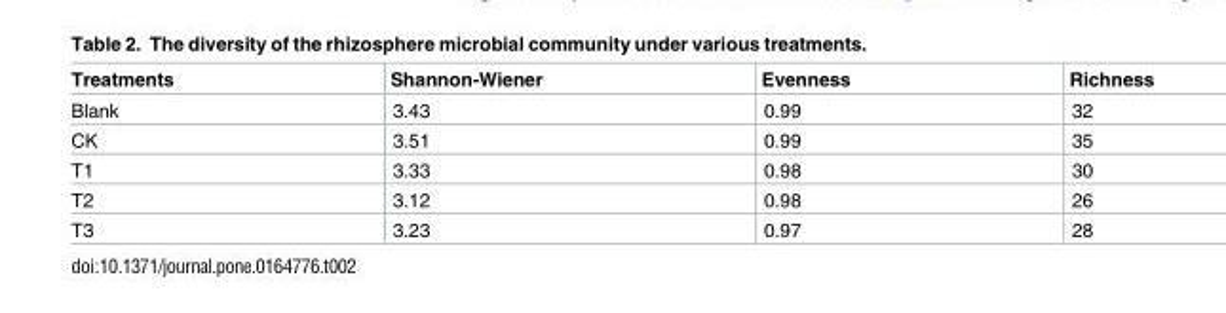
<table><thead><tr><td>Treatments</td><td>Shannon-Wiener</td><td>Evenness</td><td>Richness</td></tr></thead><tbody><tr><td>Blank</td><td>3.43</td><td>0.99</td><td>32</td></tr><tr><td>CK</td><td>3.51</td><td>0.99</td><td>35</td></tr><tr><td>T1</td><td>3.33</td><td>0.98</td><td>30</td></tr><tr><td>T2</td><td>3.12</td><td>0.98</td><td>26</td></tr><tr><td>T3</td><td>3.23</td><td>0.97</td><td>28</td></tr></tbody></table>